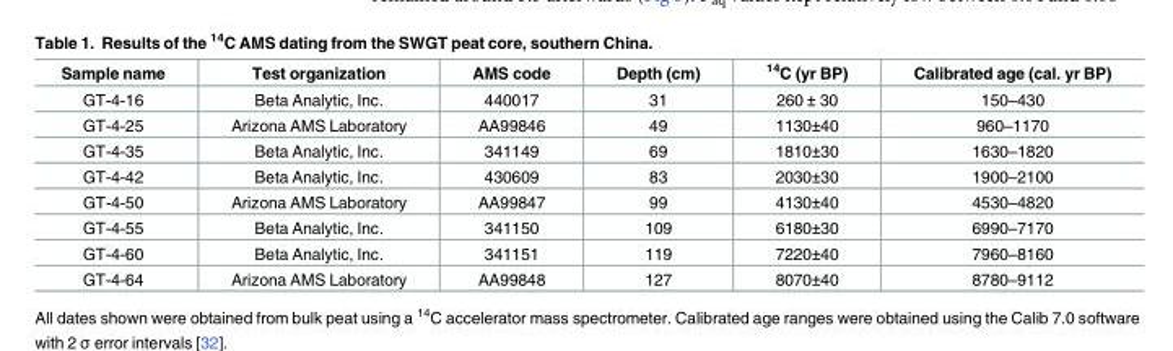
<table><thead><tr><td>Sample name</td><td>Test organization</td><td>AMS code</td><td>Depth (cm)</td><td><sup>14</sup>C (yr BP)</td><td>Calibrated age (cal. yr BP)</td></tr></thead><tbody><tr><td>GT-4-16</td><td>Beta Analytic, Inc.</td><td>440017</td><td>31</td><td>260 ± 30</td><td>150–430</td></tr><tr><td>GT-4-25</td><td>Arizona AMS Laboratory</td><td>AA99846</td><td>49</td><td>1130±40</td><td>960–1170</td></tr><tr><td>GT-4-35</td><td>Beta Analytic, Inc.</td><td>341149</td><td>69</td><td>1810±30</td><td>1630–1820</td></tr><tr><td>GT-4-42</td><td>Beta Analytic, Inc.</td><td>430609</td><td>83</td><td>2030±30</td><td>1900–2100</td></tr><tr><td>GT-4-50</td><td>Arizona AMS Laboratory</td><td>AA99847</td><td>99</td><td>4130±40</td><td>4530–4820</td></tr><tr><td>GT-4-55</td><td>Beta Analytic, Inc.</td><td>341150</td><td>109</td><td>6180±30</td><td>6990–7170</td></tr><tr><td>GT-4-60</td><td>Beta Analytic, Inc.</td><td>341151</td><td>119</td><td>7220±40</td><td>7960–8160</td></tr><tr><td>GT-4-64</td><td>Arizona AMS Laboratory</td><td>AA99848</td><td>127</td><td>8070±40</td><td>8780–9112</td></tr></tbody></table>